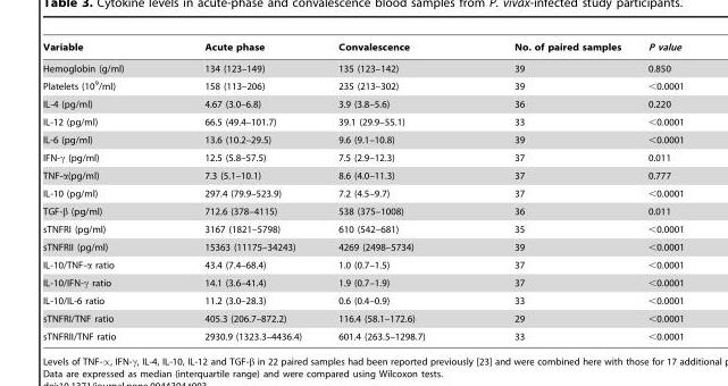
<table><thead><tr><td>Variable</td><td>Acute phase</td><td>Convalescence</td><td>No. of paired samples</td><td>P value</td></tr></thead><tbody><tr><td>Hemoglobin (g/ml)</td><td>134 (123–149)</td><td>135 (123–142)</td><td>39</td><td>0.850</td></tr><tr><td>Platelets (10<sup>9</sup>/ml)</td><td>158 (113–206)</td><td>235 (213–302)</td><td>39</td><td>&lt;0.0001</td></tr><tr><td>IL-4 (pg/ml)</td><td>4.67 (3.0–6.8)</td><td>3.9 (3.8–5.6)</td><td>36</td><td>0.220</td></tr><tr><td>IL-12 (pg/ml)</td><td>66.5 (49.4–101.7)</td><td>39.1 (29.9–55.1)</td><td>33</td><td>&lt;0.0001</td></tr><tr><td>IL-6 (pg/ml)</td><td>13.6 (10.2–29.5)</td><td>9.6 (9.1–10.8)</td><td>39</td><td>&lt;0.0001</td></tr><tr><td>IFN-γ (pg/ml)</td><td>12.5 (5.8–57.5)</td><td>7.5 (2.9–12.3)</td><td>37</td><td>0.011</td></tr><tr><td>TNF-α(pg/ml)</td><td>7.3 (5.1–10.1)</td><td>8.6 (4.0–11.3)</td><td>37</td><td>0.777</td></tr><tr><td>IL-10 (pg/ml)</td><td>297.4 (79.9–523.9)</td><td>7.2 (4.5–9.7)</td><td>37</td><td>&lt;0.0001</td></tr><tr><td>TGF-β (pg/ml)</td><td>712.6 (378–4115)</td><td>538 (375–1008)</td><td>36</td><td>0.011</td></tr><tr><td>sTNFRI (pg/ml)</td><td>3167 (1821–5798)</td><td>610 (542–681)</td><td>35</td><td>&lt;0.0001</td></tr><tr><td>sTNFRII (pg/ml)</td><td>15363 (11175–34243)</td><td>4269 (2498–5734)</td><td>39</td><td>&lt;0.0001</td></tr><tr><td>IL-10/TNF-α ratio</td><td>43.4 (7.4–68.4)</td><td>1.0 (0.7–1.5)</td><td>37</td><td>&lt;0.0001</td></tr><tr><td>IL-10/IFN-γ ratio</td><td>14.1 (3.6–41.4)</td><td>1.9 (0.7–1.9)</td><td>37</td><td>&lt;0.0001</td></tr><tr><td>IL-10/IL-6 ratio</td><td>11.2 (3.0–28.3)</td><td>0.6 (0.4–0.9)</td><td>33</td><td>&lt;0.0001</td></tr><tr><td>sTNFRI/TNF ratio</td><td>405.3 (206.7–872.2)</td><td>116.4 (58.1–172.6)</td><td>29</td><td>&lt;0.0001</td></tr><tr><td>sTNFRII/TNF ratio</td><td>2930.9 (1323.3–4436.4)</td><td>601.4 (263.5–1298.7)</td><td>33</td><td>&lt;0.0001</td></tr></tbody></table>